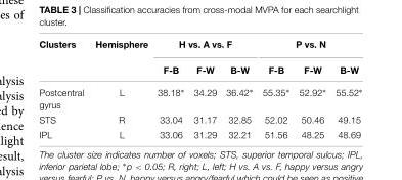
<table><thead><tr><td rowspan="2">Clusters</td><td rowspan="2">Hemisphere</td><td colspan="3">H vs. A vs. F</td><td colspan="3">P vs. N</td></tr><tr><td>F-B</td><td>F-W</td><td>B-W</td><td>F-B</td><td>F-W</td><td>B-W</td></tr></thead><tbody><tr><td>Postcentral gyrus</td><td>L</td><td>38.18∗</td><td>34.29</td><td>36.42∗</td><td>55.35∗</td><td>52.92∗</td><td>55.52∗</td></tr><tr><td>STS</td><td>R</td><td>33.04</td><td>31.17</td><td>32.85</td><td>52.02</td><td>50.46</td><td>49.15</td></tr><tr><td>IPL</td><td>L</td><td>33.06</td><td>31.29</td><td>32.21</td><td>51.56</td><td>48.25</td><td>48.69</td></tr></tbody></table>